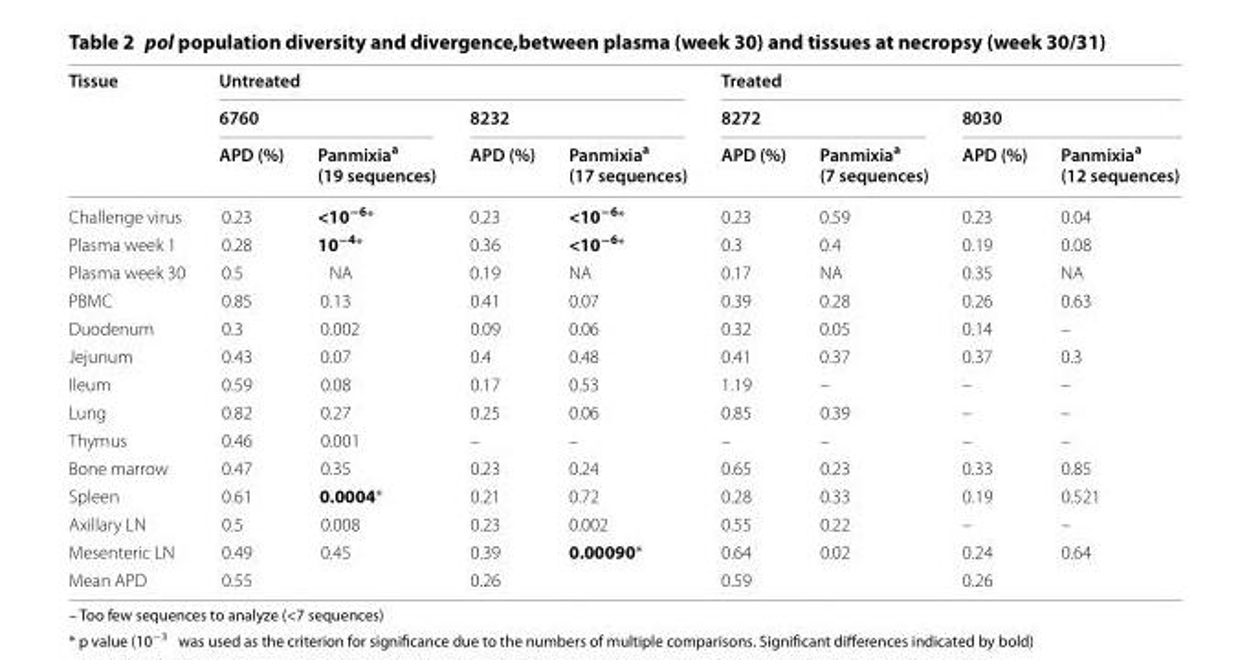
<table><thead><tr><td rowspan="3">Tissue</td><td colspan="4">Untreated</td><td colspan="4">Treated</td></tr><tr><td colspan="2">6760</td><td colspan="2">8232</td><td colspan="2">8272</td><td colspan="2">8030</td></tr><tr><td>APD (%)</td><td>Panmixia<sup>a</sup> (19 sequences)</td><td>APD (%)</td><td>Panmixia<sup>a</sup> (17 sequences)</td><td>APD (%)</td><td>Panmixia<sup>a</sup> (7 sequences)</td><td>APD (%)</td><td>Panmixia<sup>a</sup> (12 sequences)</td></tr></thead><tbody><tr><td>Challenge virus</td><td>0.23</td><td>&lt;10<sup>−6</sup>*</td><td>0.23</td><td>&lt;10<sup>−6</sup>*</td><td>0.23</td><td>0.59</td><td>0.23</td><td>0.04</td></tr><tr><td>Plasma week 1</td><td>0.28</td><td>10<sup>−4</sup>*</td><td>0.36</td><td>&lt;10<sup>−6</sup>*</td><td>0.3</td><td>0.4</td><td>0.19</td><td>0.08</td></tr><tr><td>Plasma week 30</td><td>0.5</td><td>NA</td><td>0.19</td><td>NA</td><td>0.17</td><td>NA</td><td>0.35</td><td>NA</td></tr><tr><td>PBMC</td><td>0.85</td><td>0.13</td><td>0.41</td><td>0.07</td><td>0.39</td><td>0.28</td><td>0.26</td><td>0.63</td></tr><tr><td>Duodenum</td><td>0.3</td><td>0.002</td><td>0.09</td><td>0.06</td><td>0.32</td><td>0.05</td><td>0.14</td><td>–</td></tr><tr><td>Jejunum</td><td>0.43</td><td>0.07</td><td>0.4</td><td>0.48</td><td>0.41</td><td>0.37</td><td>0.37</td><td>0.3</td></tr><tr><td>Ileum</td><td>0.59</td><td>0.08</td><td>0.17</td><td>0.53</td><td>1.19</td><td>–</td><td>–</td><td>–</td></tr><tr><td>Lung</td><td>0.82</td><td>0.27</td><td>0.25</td><td>0.06</td><td>0.85</td><td>0.39</td><td>–</td><td>–</td></tr><tr><td>Thymus</td><td>0.46</td><td>0.001</td><td>–</td><td>–</td><td>–</td><td>–</td><td>–</td><td>–</td></tr><tr><td>Bone marrow</td><td>0.47</td><td>0.35</td><td>0.23</td><td>0.24</td><td>0.65</td><td>0.23</td><td>0.33</td><td>0.85</td></tr><tr><td>Spleen</td><td>0.61</td><td>0.0004*</td><td>0.21</td><td>0.72</td><td>0.28</td><td>0.33</td><td>0.19</td><td>0.521</td></tr><tr><td>Axillary LN</td><td>0.5</td><td>0.008</td><td>0.23</td><td>0.002</td><td>0.55</td><td>0.22</td><td>–</td><td>–</td></tr><tr><td>Mesenteric LN</td><td>0.49</td><td>0.45</td><td>0.39</td><td>0.00090*</td><td>0.64</td><td>0.02</td><td>0.24</td><td>0.64</td></tr><tr><td>Mean APD</td><td colspan="2">0.55</td><td colspan="2">0.26</td><td colspan="2">0.59</td><td colspan="2">0.26</td></tr></tbody></table>